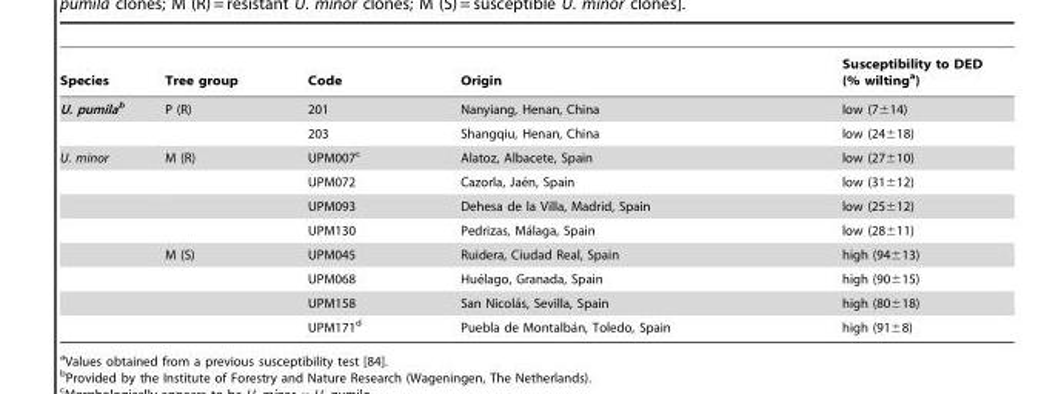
<table><thead><tr><td>Species</td><td>Tree group</td><td>Code</td><td>Origin</td><td>Susceptibility to DED (% wilting<sup>a</sup>)</td></tr></thead><tbody><tr><td rowspan="2">U. pumilab</td><td>P (R)</td><td>201</td><td>Nanyiang, Henan, China</td><td>low (7±14)</td></tr><tr><td></td><td>203</td><td>Shangqiu, Henan, China</td><td>low (24±18)</td></tr><tr><td rowspan="8">U. minor</td><td>M (R)</td><td>UPM007<sup>c</sup></td><td>Alatoz, Albacete, Spain</td><td>low (27±10)</td></tr><tr><td></td><td>UPM072</td><td>Cazorla, Jae´n, Spain</td><td>low (31±12)</td></tr><tr><td></td><td>UPM093</td><td>Dehesa de la Villa, Madrid, Spain</td><td>low (25±12)</td></tr><tr><td></td><td>UPM130</td><td>Pedrizas, Ma´laga, Spain</td><td>low (28±11)</td></tr><tr><td>M (S)</td><td>UPM045</td><td>Ruidera, Ciudad Real, Spain</td><td>high (94±13)</td></tr><tr><td></td><td>UPM068</td><td>Hue´lago, Granada, Spain</td><td>high (90±15)</td></tr><tr><td></td><td>UPM158</td><td>San Nicola´s, Sevilla, Spain</td><td>high (80±18)</td></tr><tr><td></td><td>UPM171<sup>d</sup></td><td>Puebla de Montalba´n, Toledo, Spain</td><td>high (91±8)</td></tr></tbody></table>